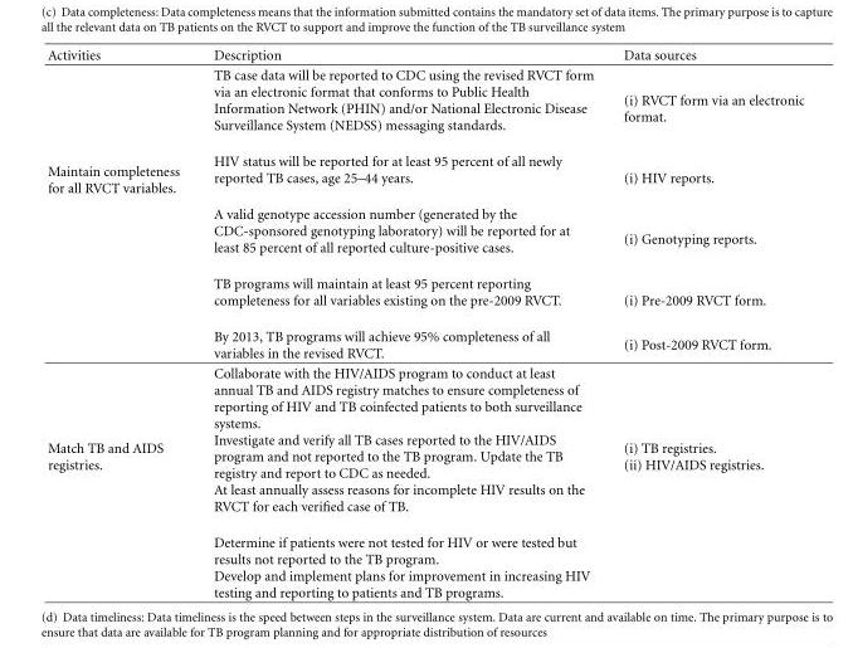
<table><thead><tr><td>Activities</td><td>Description</td><td>Data sources</td></tr></thead><tbody><tr><td rowspan="5">Maintain completeness for all RVCT variables.</td><td>TB case data will be reported to CDC using the revised RVCT form via an electronic format that conforms to Public Health Information Network (PHIN) and/or National Electronic Disease Surveillance System (NEDSS) messaging standards.</td><td>(i) RVCT form via an electronic format.</td></tr><tr><td>HIV status will be reported for at least 95 percent of all newly reported TB cases, age 25–44 years.</td><td>(i) HIV reports.</td></tr><tr><td>A valid genotype accession number (generated by the CDC-sponsored genotyping laboratory) will be reported for at least 85 percent of all reported culture-positive cases.</td><td>(i) Genotyping reports.</td></tr><tr><td>TB programs will maintain at least 95 percent reporting completeness for all variables existing on the pre-2009 RVCT.</td><td>(i) Pre-2009 RVCT form.</td></tr><tr><td>By 2013, TB programs will achieve 95% completeness of all variables in the revised RVCT.</td><td>(i) Post-2009 RVCT form.</td></tr><tr><td rowspan="2">Match TB and AIDS registries.</td><td>Collaborate with the HIV/AIDS program to conduct at least annual TB and AIDS registry matches to ensure completeness of reporting of HIV and TB coinfected patients to both surveillance systems. Investigate and verify all TB cases reported to the HIV/AIDS program and not reported to the TB program. Update the TB registry and report to CDC as needed. At least annually assess reasons for incomplete HIV results on the RVCT for each verified case of TB.</td><td rowspan="2">(i) TB registries. (ii) HIV/AIDS registries.</td></tr><tr><td>Determine if patients were not tested for HIV or were tested but results not reported to the TB program. Develop and implement plans for improvement in increasing HIV testing and reporting to patients and TB programs.</td></tr></tbody></table>